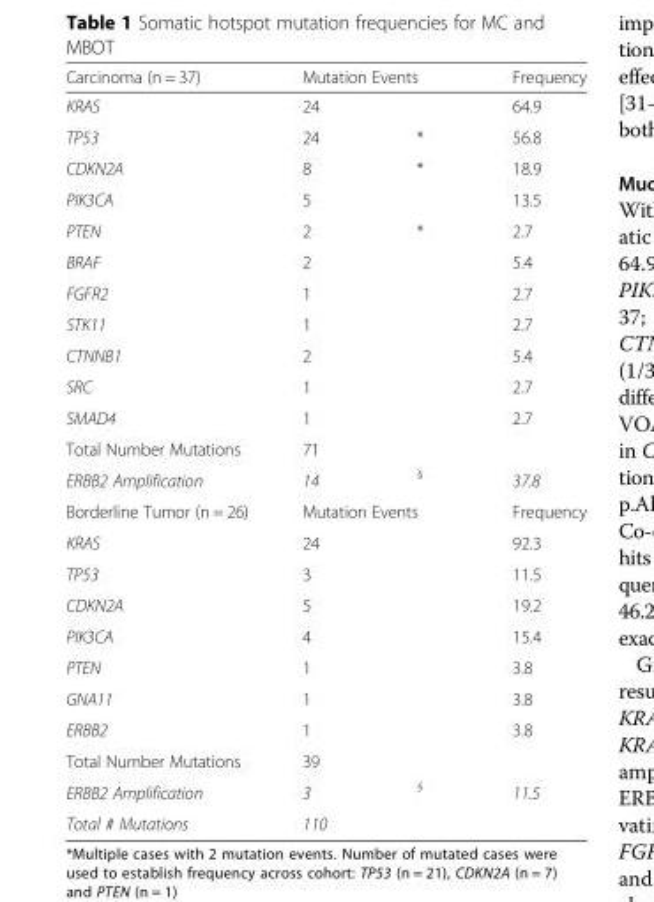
<table><thead><tr><td rowspan="2">Carcinoma (n = 37) KRAS</td><td colspan="2">Mutation Events</td><td rowspan="2">Frequency 64.9</td></tr><tr><td>24</td><td></td></tr></thead><tbody><tr><td>TP53</td><td>24</td><td>*</td><td>56.8</td></tr><tr><td>CDKN2A</td><td>8</td><td>*</td><td>18.9</td></tr><tr><td>PIK3CA</td><td>5</td><td></td><td>13.5</td></tr><tr><td>PTEN</td><td>2</td><td>*</td><td>2.7</td></tr><tr><td>BRAF</td><td>2</td><td></td><td>5.4</td></tr><tr><td>FGFR2</td><td>1</td><td></td><td>2.7</td></tr><tr><td>STK11</td><td>1</td><td></td><td>2.7</td></tr><tr><td>CTNNB1</td><td>2</td><td></td><td>5.4</td></tr><tr><td>SRC</td><td>1</td><td></td><td>2.7</td></tr><tr><td>SMAD4</td><td>1</td><td></td><td>2.7</td></tr><tr><td>Total Number Mutations</td><td>71</td><td></td><td></td></tr><tr><td>ERBB2 Amplification</td><td>14</td><td><sup>§</sup></td><td>37.8</td></tr><tr><td>Borderline Tumor (n = 26)</td><td colspan="2">Mutation Events</td><td>Frequency</td></tr><tr><td>KRAS</td><td>24</td><td></td><td>92.3</td></tr><tr><td>TP53</td><td>3</td><td></td><td>11.5</td></tr><tr><td>CDKN2A</td><td>5</td><td></td><td>19.2</td></tr><tr><td>PIK3CA</td><td>4</td><td></td><td>15.4</td></tr><tr><td>PTEN</td><td>1</td><td></td><td>3.8</td></tr><tr><td>GNA11</td><td>1</td><td></td><td>3.8</td></tr><tr><td>ERBB2</td><td>1</td><td></td><td>3.8</td></tr><tr><td>Total Number Mutations</td><td>39</td><td></td><td></td></tr><tr><td>ERBB2 Amplification</td><td>3</td><td><sup>§</sup></td><td>11.5</td></tr><tr><td>Total # Mutations</td><td>110</td><td></td><td></td></tr></tbody></table>